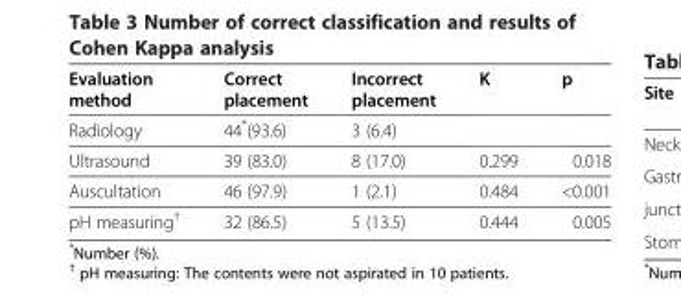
<table><thead><tr><td>Evaluation method</td><td>Correct placement</td><td>Incorrect placement</td><td>K</td><td>p</td></tr></thead><tbody><tr><td>Radiology</td><td>44*(93.6)</td><td>3 (6.4)</td><td></td><td></td></tr><tr><td>Ultrasound</td><td>39 (83.0)</td><td>8 (17.0)</td><td>0.299</td><td>0.018</td></tr><tr><td>Auscultation</td><td>46 (97.9)</td><td>1 (2.1)</td><td>0.484</td><td>&lt;0.001</td></tr><tr><td>pH measuring<sup>†</sup></td><td>32 (86.5)</td><td>5 (13.5)</td><td>0.444</td><td>0.005</td></tr></tbody></table>